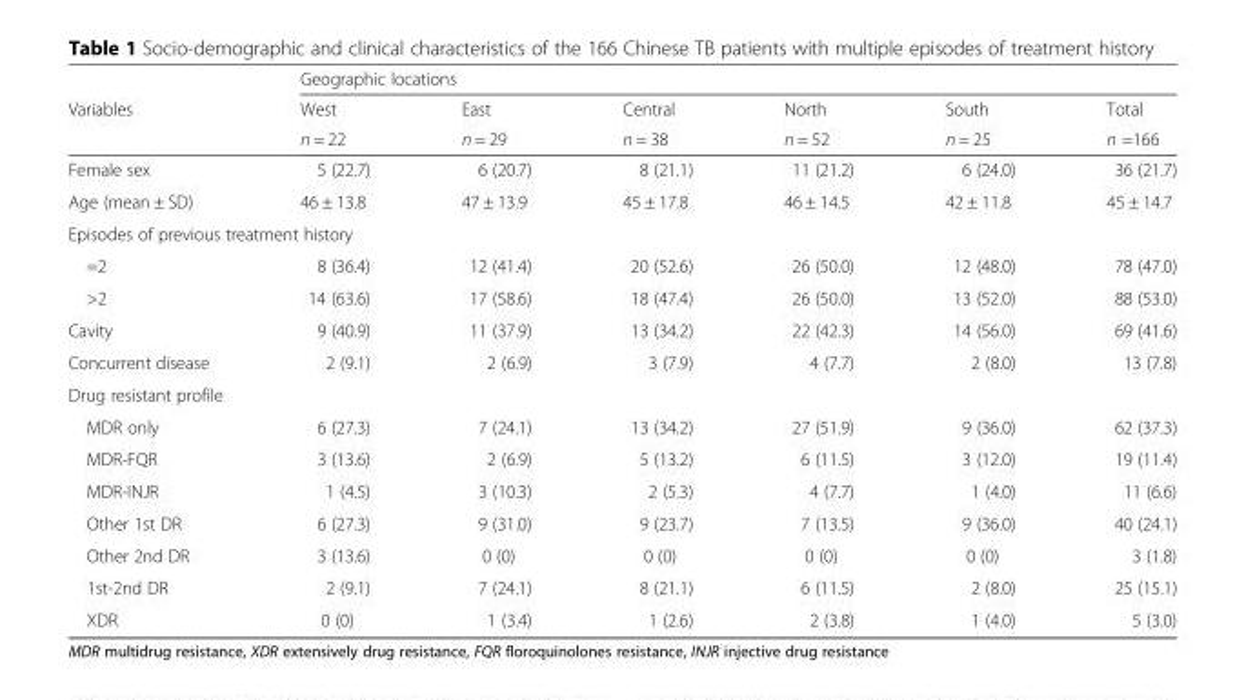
<table><thead><tr><td rowspan="3">Variables</td><td colspan="6">Geographic locations</td></tr><tr><td rowspan="2">West n = 22</td><td rowspan="2">East n = 29</td><td rowspan="2">Central n = 38</td><td rowspan="2">North n = 52</td><td rowspan="2">South n = 25</td><td rowspan="2">Total n =166</td></tr><tr></tr></thead><tbody><tr><td>Female sex</td><td>5 (22.7)</td><td>6 (20.7)</td><td>8 (21.1)</td><td>11 (21.2)</td><td>6 (24.0)</td><td>36 (21.7)</td></tr><tr><td>Age (mean ± SD)</td><td>46 ± 13.8</td><td>47 ± 13.9</td><td>45 ± 17.8</td><td>46 ± 14.5</td><td>42 ± 11.8</td><td>45 ± 14.7</td></tr><tr><td colspan="7">Episodes of previous treatment history</td></tr><tr><td>=2</td><td>8 (36.4)</td><td>12 (41.4)</td><td>20 (52.6)</td><td>26 (50.0)</td><td>12 (48.0)</td><td>78 (47.0)</td></tr><tr><td>&gt;2</td><td>14 (63.6)</td><td>17 (58.6)</td><td>18 (47.4)</td><td>26 (50.0)</td><td>13 (52.0)</td><td>88 (53.0)</td></tr><tr><td>Cavity</td><td>9 (40.9)</td><td>11 (37.9)</td><td>13 (34.2)</td><td>22 (42.3)</td><td>14 (56.0)</td><td>69 (41.6)</td></tr><tr><td>Concurrent disease</td><td>2 (9.1)</td><td>2 (6.9)</td><td>3 (7.9)</td><td>4 (7.7)</td><td>2 (8.0)</td><td>13 (7.8)</td></tr><tr><td colspan="7">Drug resistant profile</td></tr><tr><td>MDR only</td><td>6 (27.3)</td><td>7 (24.1)</td><td>13 (34.2)</td><td>27 (51.9)</td><td>9 (36.0)</td><td>62 (37.3)</td></tr><tr><td>MDR-FQR</td><td>3 (13.6)</td><td>2 (6.9)</td><td>5 (13.2)</td><td>6 (11.5)</td><td>3 (12.0)</td><td>19 (11.4)</td></tr><tr><td>MDR-INJR</td><td>1 (4.5)</td><td>3 (10.3)</td><td>2 (5.3)</td><td>4 (7.7)</td><td>1 (4.0)</td><td>11 (6.6)</td></tr><tr><td>Other 1st DR</td><td>6 (27.3)</td><td>9 (31.0)</td><td>9 (23.7)</td><td>7 (13.5)</td><td>9 (36.0)</td><td>40 (24.1)</td></tr><tr><td>Other 2nd DR</td><td>3 (13.6)</td><td>0 (0)</td><td>0 (0)</td><td>0 (0)</td><td>0 (0)</td><td>3 (1.8)</td></tr><tr><td>1st-2nd DR</td><td>2 (9.1)</td><td>7 (24.1)</td><td>8 (21.1)</td><td>6 (11.5)</td><td>2 (8.0)</td><td>25 (15.1)</td></tr><tr><td>XDR</td><td>0 (0)</td><td>1 (3.4)</td><td>1 (2.6)</td><td>2 (3.8)</td><td>1 (4.0)</td><td>5 (3.0)</td></tr></tbody></table>